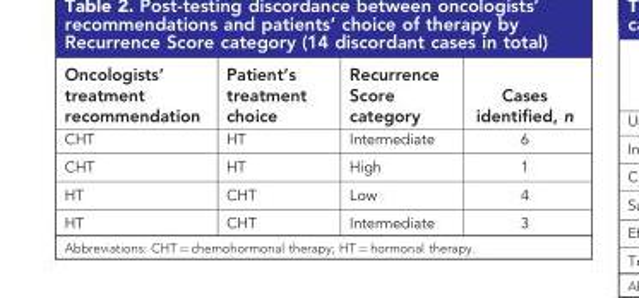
<table><thead><tr><td>Oncologists’ treatment recommendation</td><td>Patient’s treatment choice</td><td>Recurrence Score category</td><td>Cases identified, n</td></tr></thead><tbody><tr><td>CHT</td><td>HT</td><td>Intermediate</td><td>6</td></tr><tr><td>CHT</td><td>HT</td><td>High</td><td>1</td></tr><tr><td>HT</td><td>CHT</td><td>Low</td><td>4</td></tr><tr><td>HT</td><td>CHT</td><td>Intermediate</td><td>3</td></tr></tbody></table>